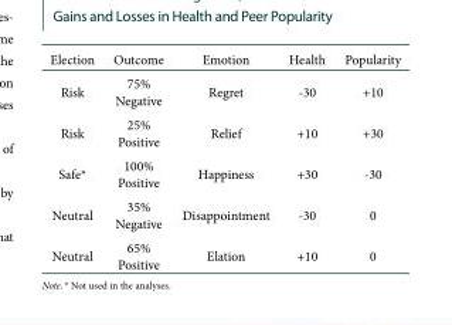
<table><thead><tr><td>Election</td><td>Outcome</td><td>Emotion</td><td>Health</td><td>Popularity</td></tr></thead><tbody><tr><td>Risk</td><td>75% Negative</td><td>Regret</td><td>-30</td><td>+10</td></tr><tr><td>Risk</td><td>25% Positive</td><td>Relief</td><td>+10</td><td>+30</td></tr><tr><td>Safe*</td><td>100% Positive</td><td>Happiness</td><td>+30</td><td>-30</td></tr><tr><td>Neutral</td><td>35% Negative</td><td>Disappointment</td><td>-30</td><td>0</td></tr><tr><td>Neutral</td><td>65% Positive</td><td>Elation</td><td>+10</td><td>0</td></tr></tbody></table>